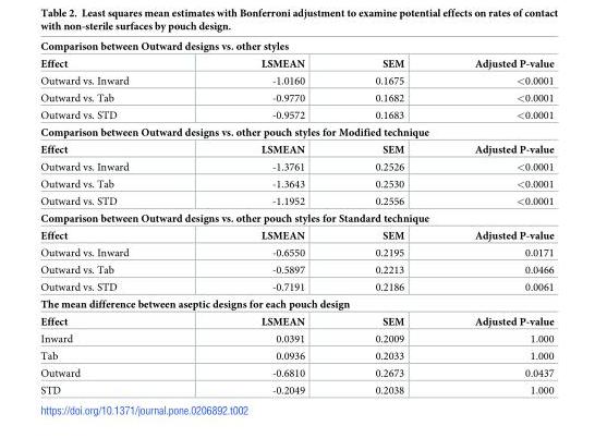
<table><tbody><tr><td colspan="4">Comparison between Outward designs vs. other styles</td></tr><tr><td>Effect</td><td>LSMEAN</td><td>SEM</td><td>Adjusted P-value</td></tr><tr><td>Outward vs. Inward</td><td>-1.0160</td><td>0.1675</td><td>&lt;0.0001</td></tr><tr><td>Outward vs. Tab</td><td>-0.9770</td><td>0.1682</td><td>&lt;0.0001</td></tr><tr><td>Outward vs. STD</td><td>-0.9572</td><td>0.1683</td><td>&lt;0.0001</td></tr><tr><td colspan="4">Comparison between Outward designs vs. other pouch styles for Modified technique</td></tr><tr><td>Effect</td><td>LSMEAN</td><td>SEM</td><td>Adjusted P-value</td></tr><tr><td>Outward vs. Inward</td><td>-1.3761</td><td>0.2526</td><td>&lt;0.0001</td></tr><tr><td>Outward vs. Tab</td><td>-1.3643</td><td>0.2530</td><td>&lt;0.0001</td></tr><tr><td>Outward vs. STD</td><td>-1.1952</td><td>0.2556</td><td>&lt;0.0001</td></tr><tr><td colspan="4">Comparison between Outward designs vs. other pouch styles for Standard technique</td></tr><tr><td>Effect</td><td>LSMEAN</td><td>SEM</td><td>Adjusted P-value</td></tr><tr><td>Outward vs. Inward</td><td>-0.6550</td><td>0.2195</td><td>0.0171</td></tr><tr><td>Outward vs. Tab</td><td>-0.5897</td><td>0.2213</td><td>0.0466</td></tr><tr><td>Outward vs. STD</td><td>-0.7191</td><td>0.2186</td><td>0.0061</td></tr><tr><td colspan="4">The mean difference between aseptic designs for each pouch design</td></tr><tr><td>Effect</td><td>LSMEAN</td><td>SEM</td><td>Adjusted P-value</td></tr><tr><td>Inward</td><td>0.0391</td><td>0.2009</td><td>1.000</td></tr><tr><td>Tab</td><td>0.0936</td><td>0.2033</td><td>1.000</td></tr><tr><td>Outward</td><td>-0.6810</td><td>0.2673</td><td>0.0437</td></tr><tr><td>STD</td><td>-0.2049</td><td>0.2038</td><td>1.000</td></tr></tbody></table>